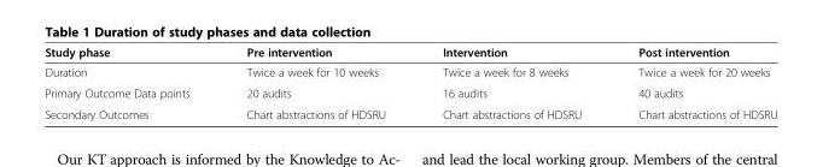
<table><thead><tr><td>Study phase</td><td>Pre intervention</td><td>Intervention</td><td>Post intervention</td></tr></thead><tbody><tr><td>Duration</td><td>Twice a week for 10 weeks</td><td>Twice a week for 8 weeks</td><td>Twice a week for 20 weeks</td></tr><tr><td>Primary Outcome Data points</td><td>20 audits</td><td>16 audits</td><td>40 audits</td></tr><tr><td>Secondary Outcomes</td><td>Chart abstractions of HDSRU</td><td>Chart abstractions of HDSRU</td><td>Chart abstractions of HDSRU</td></tr></tbody></table>